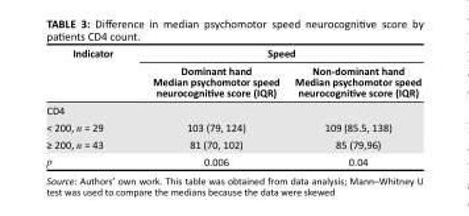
<table><thead><tr><td rowspan="2">Indicator</td><td colspan="2">Speed</td></tr><tr><td>Dominant hand Median psychomotor speed neurocognitive score (IQR)</td><td>Non-dominant hand Median psychomotor speed neurocognitive score (IQR)</td></tr></thead><tbody><tr><td colspan="3">CD4</td></tr><tr><td>&lt; 200, n = 29</td><td>103 (79, 124)</td><td>109 (85.5, 138)</td></tr><tr><td>≥ 200, n = 43</td><td>81 (70, 102)</td><td>85 (79,96)</td></tr><tr><td>p</td><td>0.006</td><td>0.04</td></tr></tbody></table>